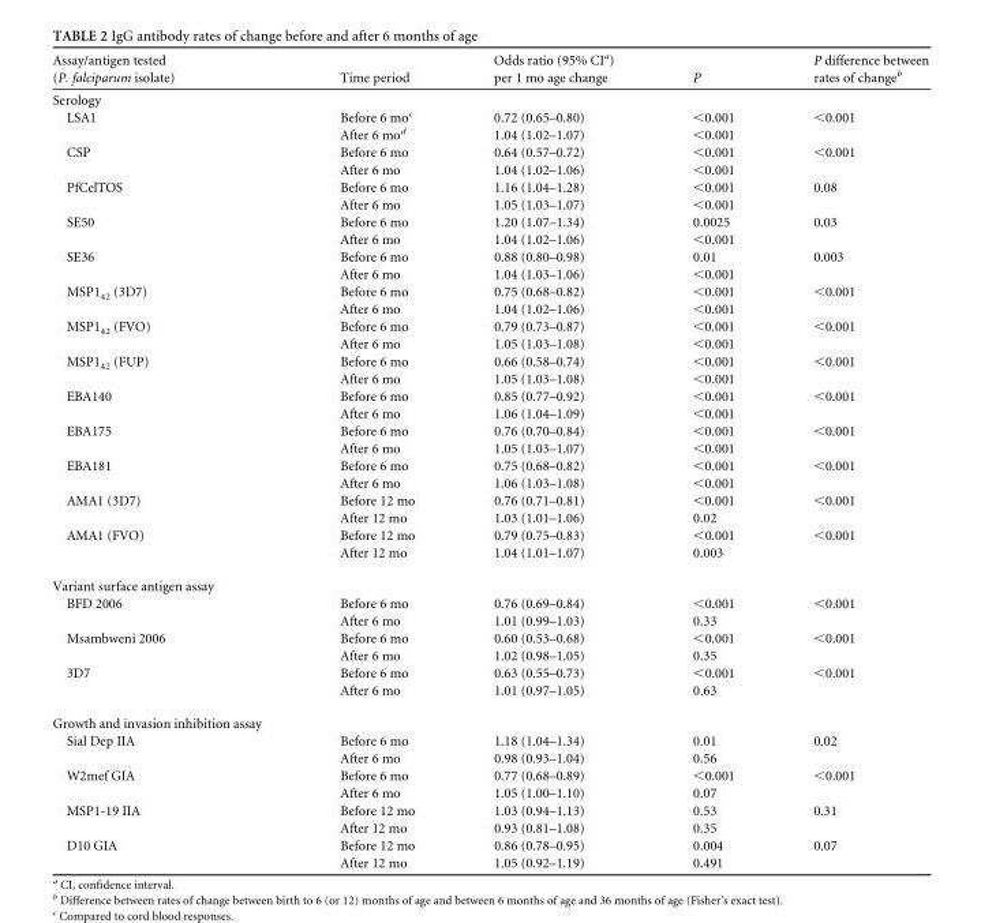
<table><thead><tr><td>Assay/antigen tested (P. falciparum isolate)</td><td>Time period</td><td>Odds ratio (95% CI<sup>a</sup>) per 1 mo age change</td><td>P</td><td>P difference between rates of change<sup>b</sup></td></tr></thead><tbody><tr><td colspan="5">Serology</td></tr><tr><td rowspan="2">LSA1</td><td>Before 6 mo<sup>c</sup></td><td>0.72 (0.65–0.80)</td><td>&lt;0.001</td><td rowspan="2">&lt;0.001</td></tr><tr><td>After 6 mo<sup>d</sup></td><td>1.04 (1.02–1.07)</td><td>&lt;0.001</td></tr><tr><td rowspan="2">CSP</td><td>Before 6 mo</td><td>0.64 (0.57–0.72)</td><td>&lt;0.001</td><td rowspan="2">&lt;0.001</td></tr><tr><td>After 6 mo</td><td>1.04 (1.02–1.06)</td><td>&lt;0.001</td></tr><tr><td rowspan="2">PfCelTOS</td><td>Before 6 mo</td><td>1.16 (1.04–1.28)</td><td>&lt;0.001</td><td rowspan="2">0.08</td></tr><tr><td>After 6 mo</td><td>1.05 (1.03–1.07)</td><td>&lt;0.001</td></tr><tr><td rowspan="2">SE50</td><td>Before 6 mo</td><td>1.20 (1.07–1.34)</td><td>0.0025</td><td rowspan="2">0.03</td></tr><tr><td>After 6 mo</td><td>1.04 (1.02–1.06)</td><td>&lt;0.001</td></tr><tr><td rowspan="2">SE36</td><td>Before 6 mo</td><td>0.88 (0.80–0.98)</td><td>0.01</td><td rowspan="2">0.003</td></tr><tr><td>After 6 mo</td><td>1.04 (1.03–1.06)</td><td>&lt;0.001</td></tr><tr><td rowspan="2">MSP1<sub>42</sub> (3D7)</td><td>Before 6 mo</td><td>0.75 (0.68–0.82)</td><td>&lt;0.001</td><td rowspan="2">&lt;0.001</td></tr><tr><td>After 6 mo</td><td>1.04 (1.02–1.06)</td><td>&lt;0.001</td></tr><tr><td rowspan="2">MSP1<sub>42</sub> (FVO)</td><td>Before 6 mo</td><td>0.79 (0.73–0.87)</td><td>&lt;0.001</td><td rowspan="2">&lt;0.001</td></tr><tr><td>After 6 mo</td><td>1.05 (1.03–1.08)</td><td>&lt;0.001</td></tr><tr><td rowspan="2">MSP1<sub>42</sub> (FUP)</td><td>Before 6 mo</td><td>0.66 (0.58–0.74)</td><td>&lt;0.001</td><td rowspan="2">&lt;0.001</td></tr><tr><td>After 6 mo</td><td>1.05 (1.03–1.08)</td><td>&lt;0.001</td></tr><tr><td rowspan="2">EBA140</td><td>Before 6 mo</td><td>0.85 (0.77–0.92)</td><td>&lt;0.001</td><td rowspan="2">&lt;0.001</td></tr><tr><td>After 6 mo</td><td>1.06 (1.04–1.09)</td><td>&lt;0.001</td></tr><tr><td rowspan="2">EBA175</td><td>Before 6 mo</td><td>0.76 (0.70–0.84)</td><td>&lt;0.001</td><td rowspan="2">&lt;0.001</td></tr><tr><td>After 6 mo</td><td>1.05 (1.03–1.07)</td><td>&lt;0.001</td></tr><tr><td rowspan="2">EBA181</td><td>Before 6 mo</td><td>0.75 (0.68–0.82)</td><td>&lt;0.001</td><td rowspan="2">&lt;0.001</td></tr><tr><td>After 6 mo</td><td>1.06 (1.03–1.08)</td><td>&lt;0.001</td></tr><tr><td rowspan="2">AMA1 (3D7)</td><td>Before 12 mo</td><td>0.76 (0.71–0.81)</td><td>&lt;0.001</td><td rowspan="2">&lt;0.001</td></tr><tr><td>After 12 mo</td><td>1.03 (1.01–1.06)</td><td>0.02</td></tr><tr><td rowspan="2">AMA1 (FVO)</td><td>Before 12 mo</td><td>0.79 (0.75–0.83)</td><td>&lt;0.001</td><td rowspan="2">&lt;0.001</td></tr><tr><td>After 12 mo</td><td>1.04 (1.01–1.07)</td><td>0.003</td></tr><tr><td colspan="5">Variant surface antigen assay</td></tr><tr><td rowspan="2">BFD 2006</td><td>Before 6 mo</td><td>0.76 (0.69–0.84)</td><td>&lt;0.001</td><td rowspan="2">&lt;0.001</td></tr><tr><td>After 6 mo</td><td>1.01 (0.99–1.03)</td><td>0.33</td></tr><tr><td rowspan="2">Msambweni 2006</td><td>Before 6 mo</td><td>0.60 (0.53–0.68)</td><td>&lt;0.001</td><td rowspan="2">&lt;0.001</td></tr><tr><td>After 6 mo</td><td>1.02 (0.98–1.05)</td><td>0.35</td></tr><tr><td rowspan="2">3D7</td><td>Before 6 mo</td><td>0.63 (0.55–0.73)</td><td>&lt;0.001</td><td rowspan="2">&lt;0.001</td></tr><tr><td>After 6 mo</td><td>1.01 (0.97–1.05)</td><td>0.63</td></tr><tr><td colspan="5">Growth and invasion inhibition assay</td></tr><tr><td rowspan="2">Sial Dep IIA</td><td>Before 6 mo</td><td>1.18 (1.04–1.34)</td><td>0.01</td><td rowspan="2">0.02</td></tr><tr><td>After 6 mo</td><td>0.98 (0.93–1.04)</td><td>0.56</td></tr><tr><td rowspan="2">W2mef GIA</td><td>Before 6 mo</td><td>0.77 (0.68–0.89)</td><td>&lt;0.001</td><td rowspan="2">&lt;0.001</td></tr><tr><td>After 6 mo</td><td>1.05 (1.00–1.10)</td><td>0.07</td></tr><tr><td rowspan="2">MSP1-19 IIA</td><td>Before 12 mo</td><td>1.03 (0.94–1.13)</td><td>0.53</td><td rowspan="2">0.31</td></tr><tr><td>After 12 mo</td><td>0.93 (0.81–1.08)</td><td>0.35</td></tr><tr><td rowspan="2">D10 GIA</td><td>Before 12 mo</td><td>0.86 (0.78–0.95)</td><td>0.004</td><td rowspan="2">0.07</td></tr><tr><td>After 12 mo</td><td>1.05 (0.92–1.19)</td><td>0.491</td></tr></tbody></table>